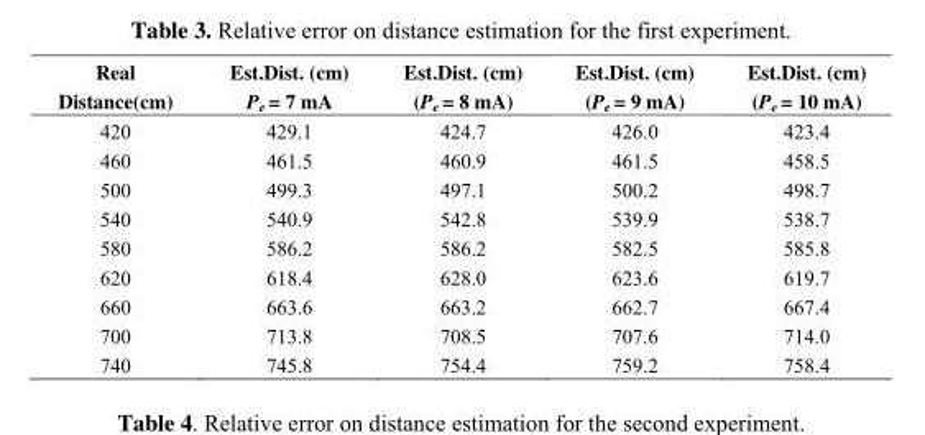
<table><thead><tr><td>Real Distance(cm)</td><td>Est.Dist. (cm) P<sub>e</sub> = 7 mA</td><td>Est.Dist. (cm) (P<sub>e</sub> = 8 mA)</td><td>Est.Dist. (cm) (P<sub>e</sub> = 9 mA)</td><td>Est.Dist. (cm) (P<sub>e</sub> = 10 mA)</td></tr></thead><tbody><tr><td>420</td><td>429.1</td><td>424.7</td><td>426.0</td><td>423.4</td></tr><tr><td>460</td><td>461.5</td><td>460.9</td><td>461.5</td><td>458.5</td></tr><tr><td>500</td><td>499.3</td><td>497.1</td><td>500.2</td><td>498.7</td></tr><tr><td>540</td><td>540.9</td><td>542.8</td><td>539.9</td><td>538.7</td></tr><tr><td>580</td><td>586.2</td><td>586.2</td><td>582.5</td><td>585.8</td></tr><tr><td>620</td><td>618.4</td><td>628.0</td><td>623.6</td><td>619.7</td></tr><tr><td>660</td><td>663.6</td><td>663.2</td><td>662.7</td><td>667.4</td></tr><tr><td>700</td><td>713.8</td><td>708.5</td><td>707.6</td><td>714.0</td></tr><tr><td>740</td><td>745.8</td><td>754.4</td><td>759.2</td><td>758.4</td></tr></tbody></table>